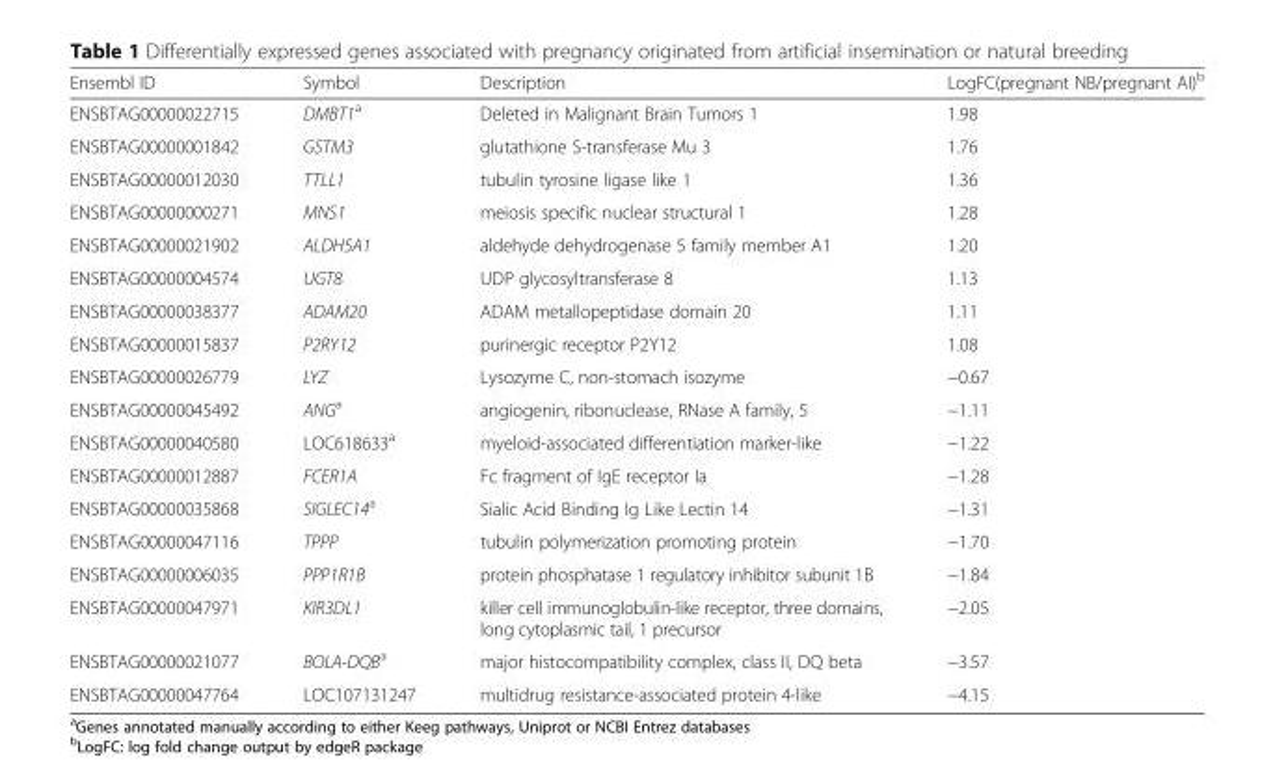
<table><thead><tr><td>Ensembl ID</td><td>Symbol</td><td>Description</td><td>LogFC(pregnant NB/pregnant AI)<sup>b</sup></td></tr></thead><tbody><tr><td>ENSBTAG00000022715</td><td>DMBT1<sup>a</sup></td><td>Deleted in Malignant Brain Tumors 1</td><td>1.98</td></tr><tr><td>ENSBTAG00000001842</td><td>GSTM3</td><td>glutathione S-transferase Mu 3</td><td>1.76</td></tr><tr><td>ENSBTAG00000012030</td><td>TTLL1</td><td>tubulin tyrosine ligase like 1</td><td>1.36</td></tr><tr><td>ENSBTAG00000000271</td><td>MNS1</td><td>meiosis specific nuclear structural 1</td><td>1.28</td></tr><tr><td>ENSBTAG00000021902</td><td>ALDH5A1</td><td>aldehyde dehydrogenase 5 family member A1</td><td>1.20</td></tr><tr><td>ENSBTAG00000004574</td><td>UGT8</td><td>UDP glycosyltransferase 8</td><td>1.13</td></tr><tr><td>ENSBTAG00000038377</td><td>ADAM20</td><td>ADAM metallopeptidase domain 20</td><td>1.11</td></tr><tr><td>ENSBTAG00000015837</td><td>P2RY12</td><td>purinergic receptor P2Y12</td><td>1.08</td></tr><tr><td>ENSBTAG00000026779</td><td>LYZ</td><td>Lysozyme C, non-stomach isozyme</td><td>−0.67</td></tr><tr><td>ENSBTAG00000045492</td><td>ANG<sup>a</sup></td><td>angiogenin, ribonuclease, RNase A family, 5</td><td>−1.11</td></tr><tr><td>ENSBTAG00000040580</td><td>LOC618633<sup>a</sup></td><td>myeloid-associated differentiation marker-like</td><td>−1.22</td></tr><tr><td>ENSBTAG00000012887</td><td>FCER1A</td><td>Fc fragment of IgE receptor Ia</td><td>−1.28</td></tr><tr><td>ENSBTAG00000035868</td><td>SIGLEC14<sup>a</sup></td><td>Sialic Acid Binding Ig Like Lectin 14</td><td>−1.31</td></tr><tr><td>ENSBTAG00000047116</td><td>TPPP</td><td>tubulin polymerization promoting protein</td><td>−1.70</td></tr><tr><td>ENSBTAG00000006035</td><td>PPP1R1B</td><td>protein phosphatase 1 regulatory inhibitor subunit 1B</td><td>−1.84</td></tr><tr><td>ENSBTAG00000047971</td><td>KIR3DL1</td><td>killer cell immunoglobulin-like receptor, three domains, long cytoplasmic tail, 1 precursor</td><td>−2.05</td></tr><tr><td>ENSBTAG00000021077</td><td>BOLA-DQB<sup>a</sup></td><td>major histocompatibility complex, class II, DQ beta</td><td>−3.57</td></tr><tr><td>ENSBTAG00000047764</td><td>LOC107131247</td><td>multidrug resistance-associated protein 4-like</td><td>−4.15</td></tr></tbody></table>